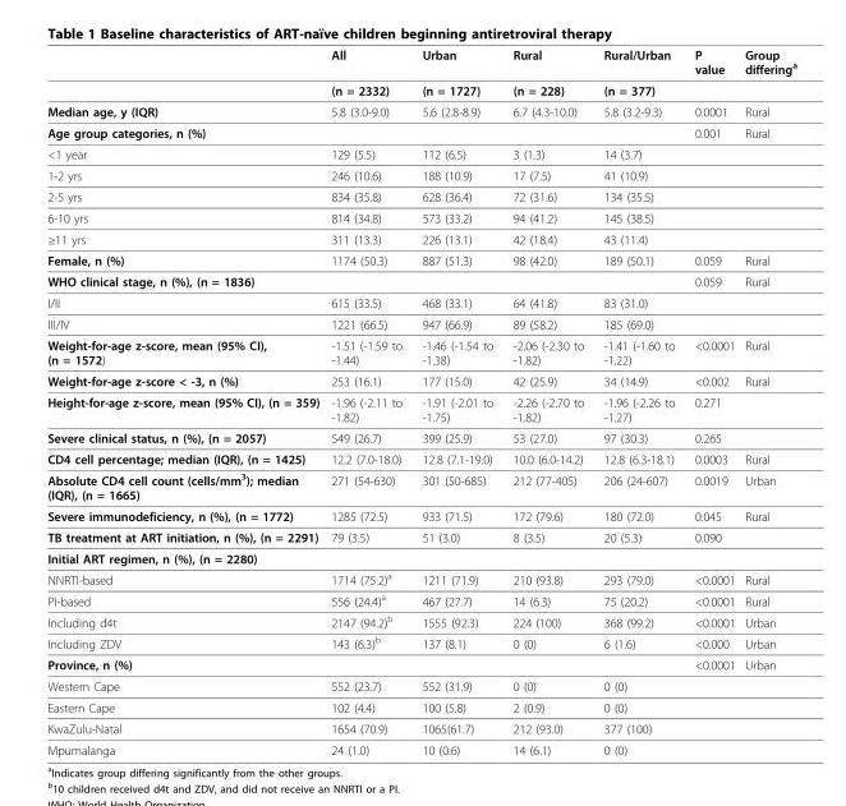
<table><thead><tr><td></td><td>All</td><td>Urban</td><td>Rural</td><td>Rural/Urban</td><td>P value</td><td>Group differing<sup>a</sup></td></tr></thead><tbody><tr><td></td><td>(n = 2332)</td><td>(n = 1727)</td><td>(n = 228)</td><td>(n = 377)</td><td></td><td></td></tr><tr><td>Median age, y (IQR)</td><td>5.8 (3.0-9.0)</td><td>5.6 (2.8-8.9)</td><td>6.7 (4.3-10.0)</td><td>5.8 (3.2-9.3)</td><td>0.0001</td><td>Rural</td></tr><tr><td>Age group categories, n (%)</td><td></td><td></td><td></td><td></td><td>0.001</td><td>Rural</td></tr><tr><td>&lt;1 year</td><td>129 (5.5)</td><td>112 (6.5)</td><td>3 (1.3)</td><td>14 (3.7)</td><td></td><td></td></tr><tr><td>1-2 yrs</td><td>246 (10.6)</td><td>188 (10.9)</td><td>17 (7.5)</td><td>41 (10.9)</td><td></td><td></td></tr><tr><td>2-5 yrs</td><td>834 (35.8)</td><td>628 (36.4)</td><td>72 (31.6)</td><td>134 (35.5)</td><td></td><td></td></tr><tr><td>6-10 yrs</td><td>814 (34.8)</td><td>573 (33.2)</td><td>94 (41.2)</td><td>145 (38.5)</td><td></td><td></td></tr><tr><td>≥11 yrs</td><td>311 (13.3)</td><td>226 (13.1)</td><td>42 (18.4)</td><td>43 (11.4)</td><td></td><td></td></tr><tr><td>Female, n (%)</td><td>1174 (50.3)</td><td>887 (51.3)</td><td>98 (42.0)</td><td>189 (50.1)</td><td>0.059</td><td>Rural</td></tr><tr><td>WHO clinical stage, n (%), (n = 1836)</td><td></td><td></td><td></td><td></td><td>0.059</td><td>Rural</td></tr><tr><td>I/II</td><td>615 (33.5)</td><td>468 (33.1)</td><td>64 (41.8)</td><td>83 (31.0)</td><td></td><td></td></tr><tr><td>III/IV</td><td>1221 (66.5)</td><td>947 (66.9)</td><td>89 (58.2)</td><td>185 (69.0)</td><td></td><td></td></tr><tr><td>Weight-for-age z-score, mean (95% CI), (n = 1572)</td><td>-1.51 (-1.59 to -1.44)</td><td>-1.46 (-1.54 to -1.38)</td><td>-2.06 (-2.30 to -1.82)</td><td>-1.41 (-1.60 to -1.22)</td><td>&lt;0.0001</td><td>Rural</td></tr><tr><td>Weight-for-age z-score &lt; -3, n (%)</td><td>253 (16.1)</td><td>177 (15.0)</td><td>42 (25.9)</td><td>34 (14.9)</td><td>&lt;0.002</td><td>Rural</td></tr><tr><td>Height-for-age z-score, mean (95% CI), (n = 359)</td><td>-1.96 (-2.11 to -1.82)</td><td>-1.91 (-2.01 to -1.75)</td><td>-2.26 (-2.70 to -1.82)</td><td>-1.96 (-2.26 to -1.27)</td><td>0.271</td><td></td></tr><tr><td>Severe clinical status, n (%), (n = 2057)</td><td>549 (26.7)</td><td>399 (25.9)</td><td>53 (27.0)</td><td>97 (30.3)</td><td>0.265</td><td></td></tr><tr><td>CD4 cell percentage; median (IQR), (n = 1425)</td><td>12.2 (7.0-18.0)</td><td>12.8 (7.1-19.0)</td><td>10.0 (6.0-14.2)</td><td>12.8 (6.3-18.1)</td><td>0.0003</td><td>Rural</td></tr><tr><td>Absolute CD4 cell count (cells/mm<sup>3</sup>); median (IQR), (n = 1665)</td><td>271 (54-630)</td><td>301 (50-685)</td><td>212 (77-405)</td><td>206 (24-607)</td><td>0.0019</td><td>Urban</td></tr><tr><td>Severe immunodeficiency, n (%), (n = 1772)</td><td>1285 (72.5)</td><td>933 (71.5)</td><td>172 (79.6)</td><td>180 (72.0)</td><td>0.045</td><td>Rural</td></tr><tr><td>TB treatment at ART initiation, n (%), (n = 2291)</td><td>79 (3.5)</td><td>51 (3.0)</td><td>8 (3.5)</td><td>20 (5.3)</td><td>0.090</td><td></td></tr><tr><td colspan="7">Initial ART regimen, n (%), (n = 2280)</td></tr><tr><td>NNRTI-based</td><td>1714 (75.2)<sup>a</sup></td><td>1211 (71.9)</td><td>210 (93.8)</td><td>293 (79.0)</td><td>&lt;0.0001</td><td>Rural</td></tr><tr><td>PI-based</td><td>556 (24.4)<sup>a</sup></td><td>467 (27.7)</td><td>14 (6.3)</td><td>75 (20.2)</td><td>&lt;0.0001</td><td>Rural</td></tr><tr><td>Including d4t</td><td>2147 (94.2)<sup>b</sup></td><td>1555 (92.3)</td><td>224 (100)</td><td>368 (99.2)</td><td>&lt;0.0001</td><td>Urban</td></tr><tr><td>Including ZDV</td><td>143 (6.3)<sup>b</sup></td><td>137 (8.1)</td><td>0 (0)</td><td>6 (1.6)</td><td>&lt;0.000</td><td>Urban</td></tr><tr><td>Province, n (%)</td><td></td><td></td><td></td><td></td><td>&lt;0.0001</td><td>Urban</td></tr><tr><td>Western Cape</td><td>552 (23.7)</td><td>552 (31.9)</td><td>0 (0)</td><td>0 (0)</td><td></td><td></td></tr><tr><td>Eastern Cape</td><td>102 (4.4)</td><td>100 (5.8)</td><td>2 (0.9)</td><td>0 (0)</td><td></td><td></td></tr><tr><td>KwaZulu-Natal</td><td>1654 (70.9)</td><td>1065(61.7)</td><td>212 (93.0)</td><td>377 (100)</td><td></td><td></td></tr><tr><td>Mpumalanga</td><td>24 (1.0)</td><td>10 (0.6)</td><td>14 (6.1)</td><td>0 (0)</td><td></td><td></td></tr></tbody></table>